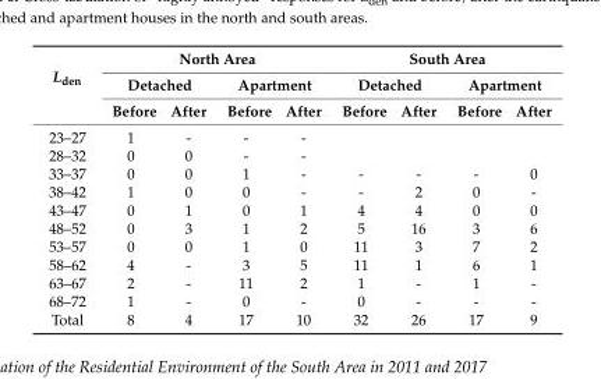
<table><thead><tr><td rowspan="3">L<sub>den</sub></td><td colspan="4">North Area</td><td colspan="4">South Area</td></tr><tr><td colspan="2">Detached</td><td colspan="2">Apartment</td><td colspan="2">Detached</td><td colspan="2">Apartment</td></tr><tr><td>Before</td><td>After</td><td>Before</td><td>After</td><td>Before</td><td>After</td><td>Before</td><td>After</td></tr></thead><tbody><tr><td>23–27</td><td>1</td><td>-</td><td>-</td><td>-</td><td></td><td></td><td></td><td></td></tr><tr><td>28–32</td><td>0</td><td>0</td><td>-</td><td>-</td><td></td><td></td><td></td><td></td></tr><tr><td>33–37</td><td>0</td><td>0</td><td>1</td><td>-</td><td>-</td><td>-</td><td>-</td><td>0</td></tr><tr><td>38–42</td><td>1</td><td>0</td><td>0</td><td>-</td><td>-</td><td>2</td><td>0</td><td>-</td></tr><tr><td>43–47</td><td>0</td><td>1</td><td>0</td><td>1</td><td>4</td><td>4</td><td>0</td><td>0</td></tr><tr><td>48–52</td><td>0</td><td>3</td><td>1</td><td>2</td><td>5</td><td>16</td><td>3</td><td>6</td></tr><tr><td>53–57</td><td>0</td><td>0</td><td>1</td><td>0</td><td>11</td><td>3</td><td>7</td><td>2</td></tr><tr><td>58–62</td><td>4</td><td>-</td><td>3</td><td>5</td><td>11</td><td>1</td><td>6</td><td>1</td></tr><tr><td>63–67</td><td>2</td><td>-</td><td>11</td><td>2</td><td>1</td><td>-</td><td>1</td><td>-</td></tr><tr><td>68–72</td><td>1</td><td>-</td><td>0</td><td>-</td><td>0</td><td>-</td><td>-</td><td>-</td></tr><tr><td>Total</td><td>8</td><td>4</td><td>17</td><td>10</td><td>32</td><td>26</td><td>17</td><td>9</td></tr></tbody></table>